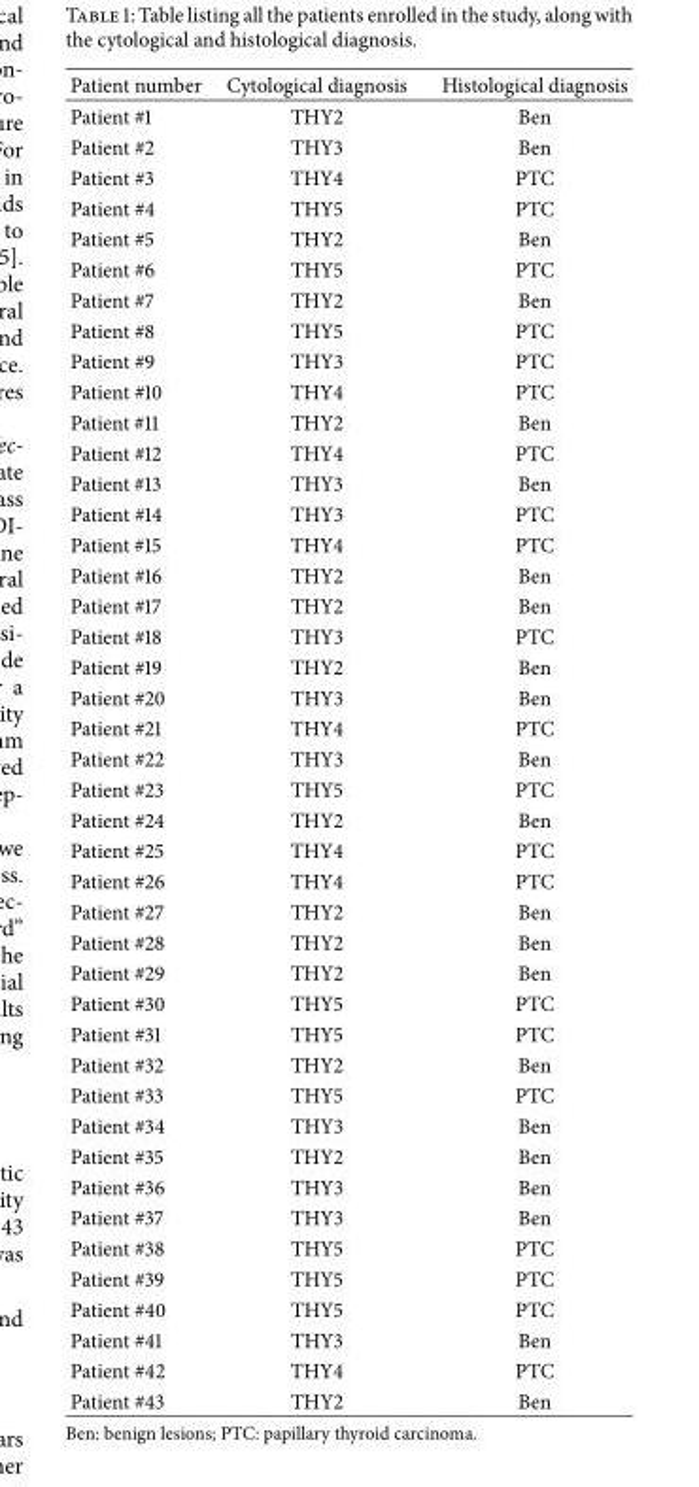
<table><thead><tr><td>Patient number</td><td>Cytological diagnosis</td><td>Histological diagnosis</td></tr></thead><tbody><tr><td>Patient #1</td><td>THY2</td><td>Ben</td></tr><tr><td>Patient #2</td><td>THY3</td><td>Ben</td></tr><tr><td>Patient #3</td><td>THY4</td><td>PTC</td></tr><tr><td>Patient #4</td><td>THY5</td><td>PTC</td></tr><tr><td>Patient #5</td><td>THY2</td><td>Ben</td></tr><tr><td>Patient #6</td><td>THY5</td><td>PTC</td></tr><tr><td>Patient #7</td><td>THY2</td><td>Ben</td></tr><tr><td>Patient #8</td><td>THY5</td><td>PTC</td></tr><tr><td>Patient #9</td><td>THY3</td><td>PTC</td></tr><tr><td>Patient #10</td><td>THY4</td><td>PTC</td></tr><tr><td>Patient #11</td><td>THY2</td><td>Ben</td></tr><tr><td>Patient #12</td><td>THY4</td><td>PTC</td></tr><tr><td>Patient #13</td><td>THY3</td><td>Ben</td></tr><tr><td>Patient #14</td><td>THY3</td><td>PTC</td></tr><tr><td>Patient #15</td><td>THY4</td><td>PTC</td></tr><tr><td>Patient #16</td><td>THY2</td><td>Ben</td></tr><tr><td>Patient #17</td><td>THY2</td><td>Ben</td></tr><tr><td>Patient #18</td><td>THY3</td><td>PTC</td></tr><tr><td>Patient #19</td><td>THY2</td><td>Ben</td></tr><tr><td>Patient #20</td><td>THY3</td><td>Ben</td></tr><tr><td>Patient #21</td><td>THY4</td><td>PTC</td></tr><tr><td>Patient #22</td><td>THY3</td><td>Ben</td></tr><tr><td>Patient #23</td><td>THY5</td><td>PTC</td></tr><tr><td>Patient #24</td><td>THY2</td><td>Ben</td></tr><tr><td>Patient #25</td><td>THY4</td><td>PTC</td></tr><tr><td>Patient #26</td><td>THY4</td><td>PTC</td></tr><tr><td>Patient #27</td><td>THY2</td><td>Ben</td></tr><tr><td>Patient #28</td><td>THY2</td><td>Ben</td></tr><tr><td>Patient #29</td><td>THY2</td><td>Ben</td></tr><tr><td>Patient #30</td><td>THY5</td><td>PTC</td></tr><tr><td>Patient #31</td><td>THY5</td><td>PTC</td></tr><tr><td>Patient #32</td><td>THY2</td><td>Ben</td></tr><tr><td>Patient #33</td><td>THY5</td><td>PTC</td></tr><tr><td>Patient #34</td><td>THY3</td><td>Ben</td></tr><tr><td>Patient #35</td><td>THY2</td><td>Ben</td></tr><tr><td>Patient #36</td><td>THY3</td><td>Ben</td></tr><tr><td>Patient #37</td><td>THY3</td><td>Ben</td></tr><tr><td>Patient #38</td><td>THY5</td><td>PTC</td></tr><tr><td>Patient #39</td><td>THY5</td><td>PTC</td></tr><tr><td>Patient #40</td><td>THY5</td><td>PTC</td></tr><tr><td>Patient #41</td><td>THY3</td><td>Ben</td></tr><tr><td>Patient #42</td><td>THY4</td><td>PTC</td></tr><tr><td>Patient #43</td><td>THY2</td><td>Ben</td></tr></tbody></table>